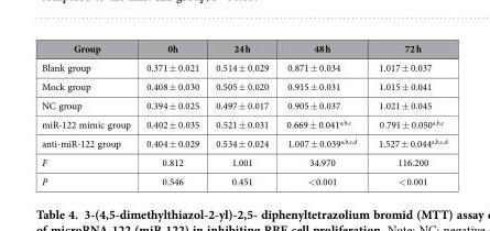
<table><thead><tr><td>Group</td><td>0h</td><td>24 h</td><td>48 h</td><td>72 h</td></tr></thead><tbody><tr><td>Blank group</td><td>0.371 ± 0.021</td><td>0.514 ± 0.029</td><td>0.871 ± 0.034</td><td>1.017 ± 0.037</td></tr><tr><td>Mock group</td><td>0.408 ± 0.030</td><td>0.505 ± 0.020</td><td>0.915 ± 0.031</td><td>1.015 ± 0.041</td></tr><tr><td>NC group</td><td>0.394 ± 0.025</td><td>0.497 ± 0.017</td><td>0.905 ± 0.037</td><td>1.021 ± 0.045</td></tr><tr><td>miR-122 mimic group</td><td>0.402 ± 0.035</td><td>0.521 ± 0.031</td><td>0.669 ± 0.041<sup>a,b,c</sup></td><td>0.791 ± 0.050<sup>a,b,c</sup></td></tr><tr><td>anti-miR-122 group</td><td>0.404 ± 0.029</td><td>0.534 ± 0.024</td><td>1.007 ± 0.039<sup>a,b,c,d</sup></td><td>1.527 ± 0.044<sup>a,b,c,d</sup></td></tr><tr><td>F</td><td>0.812</td><td>1.001</td><td>34.970</td><td>116.200</td></tr><tr><td>P</td><td>0.546</td><td>0.451</td><td>&lt; 0.001</td><td>&lt; 0.001</td></tr></tbody></table>